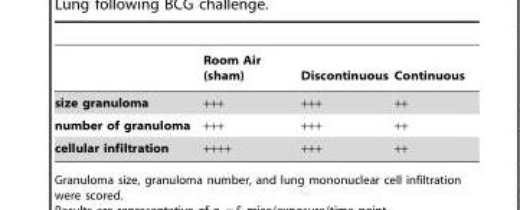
<table><thead><tr><td></td><td>Room Air (sham)</td><td>Discontinuous</td><td>Continuous</td></tr></thead><tbody><tr><td>size granuloma</td><td>+++</td><td>+++</td><td>++</td></tr><tr><td>number of granuloma</td><td>+++</td><td>+++</td><td>++</td></tr><tr><td>cellular infiltration</td><td>++++</td><td>+++</td><td>++</td></tr></tbody></table>